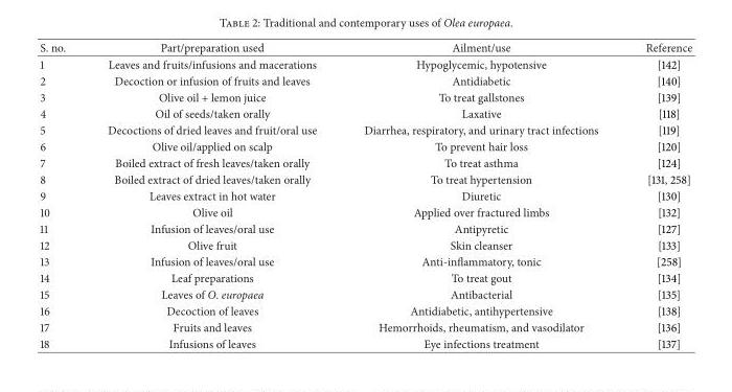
<table><thead><tr><td>S. no.</td><td>Part/preparation used</td><td>Ailment/use</td><td>Reference</td></tr></thead><tbody><tr><td>1</td><td>Leaves and fruits/infusions and macerations</td><td>Hypoglycemic, hypotensive</td><td>[142]</td></tr><tr><td>2</td><td>Decoction or infusion of fruits and leaves</td><td>Antidiabetic</td><td>[140]</td></tr><tr><td>3</td><td>Olive oil + lemon juice</td><td>To treat gallstones</td><td>[139]</td></tr><tr><td>4</td><td>Oil of seeds/taken orally</td><td>Laxative</td><td>[118]</td></tr><tr><td>5</td><td>Decoctions of dried leaves and fruit/oral use</td><td>Diarrhea, respiratory, and urinary tract infections</td><td>[119]</td></tr><tr><td>6</td><td>Olive oil/applied on scalp</td><td>To prevent hair loss</td><td>[120]</td></tr><tr><td>7</td><td>Boiled extract of fresh leaves/taken orally</td><td>To treat asthma</td><td>[124]</td></tr><tr><td>8</td><td>Boiled extract of dried leaves/taken orally</td><td>To treat hypertension</td><td>[131, 258]</td></tr><tr><td>9</td><td>Leaves extract in hot water</td><td>Diuretic</td><td>[130]</td></tr><tr><td>10</td><td>Olive oil</td><td>Applied over fractured limbs</td><td>[132]</td></tr><tr><td>11</td><td>Infusion of leaves/oral use</td><td>Antipyretic</td><td>[127]</td></tr><tr><td>12</td><td>Olive fruit</td><td>Skin cleanser</td><td>[133]</td></tr><tr><td>13</td><td>Infusion of leaves/oral use</td><td>Anti-inflammatory, tonic</td><td>[258]</td></tr><tr><td>14</td><td>Leaf preparations</td><td>To treat gout</td><td>[134]</td></tr><tr><td>15</td><td>Leaves of O. europaea</td><td>Antibacterial</td><td>[135]</td></tr><tr><td>16</td><td>Decoction of leaves</td><td>Antidiabetic, antihypertensive</td><td>[138]</td></tr><tr><td>17</td><td>Fruits and leaves</td><td>Hemorrhoids, rheumatism, and vasodilator</td><td>[136]</td></tr><tr><td>18</td><td>Infusions of leaves</td><td>Eye infections treatment</td><td>[137]</td></tr></tbody></table>